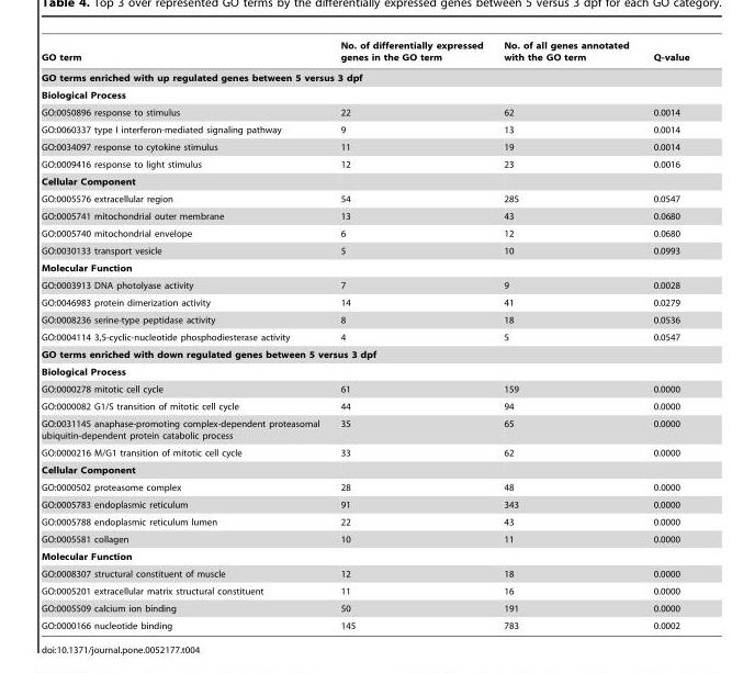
<table><thead><tr><td>GO term</td><td>No. of differentially expressed genes in the GO term</td><td>No. of all genes annotated with the GO term</td><td>Q-value</td></tr></thead><tbody><tr><td colspan="4">GO terms enriched with up regulated genes between 5 versus 3 dpf</td></tr><tr><td colspan="4">Biological Process</td></tr><tr><td>GO:0050896 response to stimulus</td><td>22</td><td>62</td><td>0.0014</td></tr><tr><td>GO:0060337 type I interferon-mediated signaling pathway</td><td>9</td><td>13</td><td>0.0014</td></tr><tr><td>GO:0034097 response to cytokine stimulus</td><td>11</td><td>19</td><td>0.0014</td></tr><tr><td>GO:0009416 response to light stimulus</td><td>12</td><td>23</td><td>0.0016</td></tr><tr><td colspan="4">Cellular Component</td></tr><tr><td>GO:0005576 extracellular region</td><td>54</td><td>285</td><td>0.0547</td></tr><tr><td>GO:0005741 mitochondrial outer membrane</td><td>13</td><td>43</td><td>0.0680</td></tr><tr><td>GO:0005740 mitochondrial envelope</td><td>6</td><td>12</td><td>0.0680</td></tr><tr><td>GO:0030133 transport vesicle</td><td>5</td><td>10</td><td>0.0993</td></tr><tr><td colspan="4">Molecular Function</td></tr><tr><td>GO:0003913 DNA photolyase activity</td><td>7</td><td>9</td><td>0.0028</td></tr><tr><td>GO:0046983 protein dimerization activity</td><td>14</td><td>41</td><td>0.0279</td></tr><tr><td>GO:0008236 serine-type peptidase activity</td><td>8</td><td>18</td><td>0.0536</td></tr><tr><td>GO:0004114 3,5-cyclic-nucleotide phosphodiesterase activity</td><td>4</td><td>5</td><td>0.0547</td></tr><tr><td colspan="4">GO terms enriched with down regulated genes between 5 versus 3 dpf</td></tr><tr><td colspan="4">Biological Process</td></tr><tr><td>GO:0000278 mitotic cell cycle</td><td>61</td><td>159</td><td>0.0000</td></tr><tr><td>GO:0000082 G1/S transition of mitotic cell cycle</td><td>44</td><td>94</td><td>0.0000</td></tr><tr><td>GO:0031145 anaphase-promoting complex-dependent proteasomal ubiquitin-dependent protein catabolic process</td><td>35</td><td>65</td><td>0.0000</td></tr><tr><td>GO:0000216 M/G1 transition of mitotic cell cycle</td><td>33</td><td>62</td><td>0.0000</td></tr><tr><td colspan="4">Cellular Component</td></tr><tr><td>GO:0000502 proteasome complex</td><td>28</td><td>48</td><td>0.0000</td></tr><tr><td>GO:0005783 endoplasmic reticulum</td><td>91</td><td>343</td><td>0.0000</td></tr><tr><td>GO:0005788 endoplasmic reticulum lumen</td><td>22</td><td>43</td><td>0.0000</td></tr><tr><td>GO:0005581 collagen</td><td>10</td><td>11</td><td>0.0000</td></tr><tr><td colspan="4">Molecular Function</td></tr><tr><td>GO:0008307 structural constituent of muscle</td><td>12</td><td>18</td><td>0.0000</td></tr><tr><td>GO:0005201 extracellular matrix structural constituent</td><td>11</td><td>16</td><td>0.0000</td></tr><tr><td>GO:0005509 calcium ion binding</td><td>50</td><td>191</td><td>0.0000</td></tr><tr><td>GO:0000166 nucleotide binding</td><td>145</td><td>783</td><td>0.0002</td></tr></tbody></table>